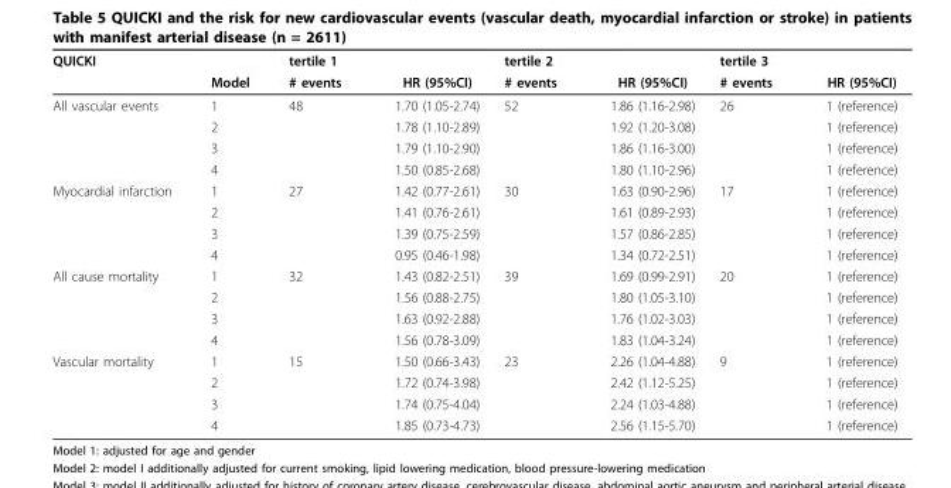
<table><thead><tr><td rowspan="2">QUICKI</td><td rowspan="2">Model</td><td colspan="2">tertile 1</td><td colspan="2">tertile 2</td><td colspan="2">tertile 3</td></tr><tr><td># events</td><td>HR (95%CI)</td><td># events</td><td>HR (95%CI)</td><td># events</td><td>HR (95%CI)</td></tr></thead><tbody><tr><td rowspan="4">All vascular events</td><td>1</td><td>48</td><td>1.70 (1.05-2.74)</td><td>52</td><td>1.86 (1.16-2.98)</td><td>26</td><td>1 (reference)</td></tr><tr><td>2</td><td></td><td>1.78 (1.10-2.89)</td><td></td><td>1.92 (1.20-3.08)</td><td></td><td>1 (reference)</td></tr><tr><td>3</td><td></td><td>1.79 (1.10-2.90)</td><td></td><td>1.86 (1.16-3.00)</td><td></td><td>1 (reference)</td></tr><tr><td>4</td><td></td><td>1.50 (0.85-2.68)</td><td></td><td>1.80 (1.10-2.96)</td><td></td><td>1 (reference)</td></tr><tr><td rowspan="4">Myocardial infarction</td><td>1</td><td>27</td><td>1.42 (0.77-2.61)</td><td>30</td><td>1.63 (0.90-2.96)</td><td>17</td><td>1 (reference)</td></tr><tr><td>2</td><td></td><td>1.41 (0.76-2.61)</td><td></td><td>1.61 (0.89-2.93)</td><td></td><td>1 (reference)</td></tr><tr><td>3</td><td></td><td>1.39 (0.75-2.59)</td><td></td><td>1.57 (0.86-2.85)</td><td></td><td>1 (reference)</td></tr><tr><td>4</td><td></td><td>0.95 (0.46-1.98)</td><td></td><td>1.34 (0.72-2.51)</td><td></td><td>1 (reference)</td></tr><tr><td rowspan="4">All cause mortality</td><td>1</td><td>32</td><td>1.43 (0.82-2.51)</td><td>39</td><td>1.69 (0.99-2.91)</td><td>20</td><td>1 (reference)</td></tr><tr><td>2</td><td></td><td>1.56 (0.88-2.75)</td><td></td><td>1.80 (1.05-3.10)</td><td></td><td>1 (reference)</td></tr><tr><td>3</td><td></td><td>1.63 (0.92-2.88)</td><td></td><td>1.76 (1.02-3.03)</td><td></td><td>1 (reference)</td></tr><tr><td>4</td><td></td><td>1.56 (0.78-3.09)</td><td></td><td>1.83 (1.04-3.24)</td><td></td><td>1 (reference)</td></tr><tr><td rowspan="4">Vascular mortality</td><td>1</td><td>15</td><td>1.50 (0.66-3.43)</td><td>23</td><td>2.26 (1.04-4.88)</td><td>9</td><td>1 (reference)</td></tr><tr><td>2</td><td></td><td>1.72 (0.74-3.98)</td><td></td><td>2.42 (1.12-5.25)</td><td></td><td>1 (reference)</td></tr><tr><td>3</td><td></td><td>1.74 (0.75-4.04)</td><td></td><td>2.24 (1.03-4.88)</td><td></td><td>1 (reference)</td></tr><tr><td>4</td><td></td><td>1.85 (0.73-4.73)</td><td></td><td>2.56 (1.15-5.70)</td><td></td><td>1 (reference)</td></tr></tbody></table>